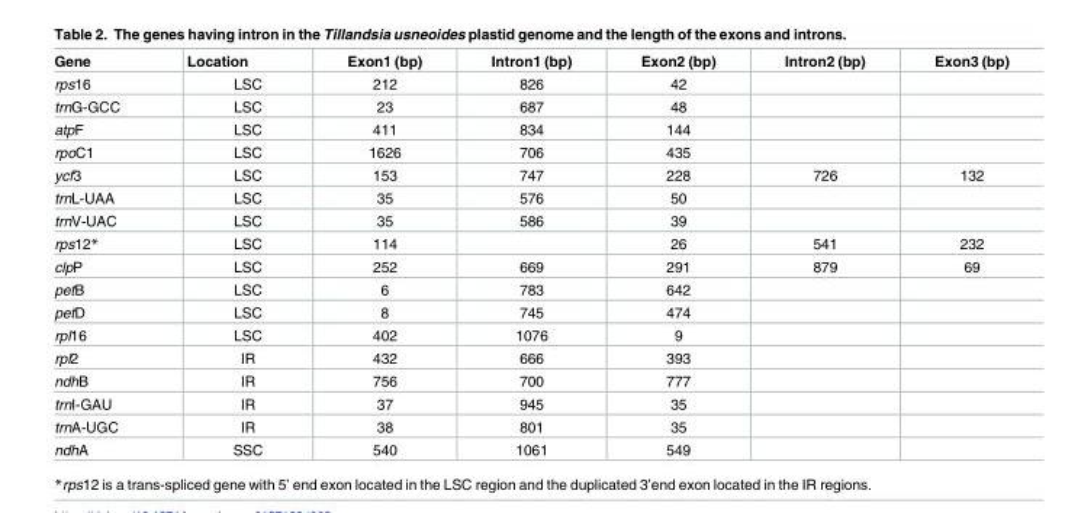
<table><thead><tr><td>Gene</td><td>Location</td><td>Exon1 (bp)</td><td>Intron1 (bp)</td><td>Exon2 (bp)</td><td>Intron2 (bp)</td><td>Exon3 (bp)</td></tr></thead><tbody><tr><td>rps16</td><td>LSC</td><td>212</td><td>826</td><td>42</td><td></td><td></td></tr><tr><td>trnG-GCC</td><td>LSC</td><td>23</td><td>687</td><td>48</td><td></td><td></td></tr><tr><td>atpF</td><td>LSC</td><td>411</td><td>834</td><td>144</td><td></td><td></td></tr><tr><td>rpoC1</td><td>LSC</td><td>1626</td><td>706</td><td>435</td><td></td><td></td></tr><tr><td>ycf3</td><td>LSC</td><td>153</td><td>747</td><td>228</td><td>726</td><td>132</td></tr><tr><td>trnL-UAA</td><td>LSC</td><td>35</td><td>576</td><td>50</td><td></td><td></td></tr><tr><td>trnV-UAC</td><td>LSC</td><td>35</td><td>586</td><td>39</td><td></td><td></td></tr><tr><td>rps12*</td><td>LSC</td><td>114</td><td></td><td>26</td><td>541</td><td>232</td></tr><tr><td>clpP</td><td>LSC</td><td>252</td><td>669</td><td>291</td><td>879</td><td>69</td></tr><tr><td>petB</td><td>LSC</td><td>6</td><td>783</td><td>642</td><td></td><td></td></tr><tr><td>petD</td><td>LSC</td><td>8</td><td>745</td><td>474</td><td></td><td></td></tr><tr><td>rpl16</td><td>LSC</td><td>402</td><td>1076</td><td>9</td><td></td><td></td></tr><tr><td>rpl2</td><td>IR</td><td>432</td><td>666</td><td>393</td><td></td><td></td></tr><tr><td>ndhB</td><td>IR</td><td>756</td><td>700</td><td>777</td><td></td><td></td></tr><tr><td>trnI-GAU</td><td>IR</td><td>37</td><td>945</td><td>35</td><td></td><td></td></tr><tr><td>trnA-UGC</td><td>IR</td><td>38</td><td>801</td><td>35</td><td></td><td></td></tr><tr><td>ndhA</td><td>SSC</td><td>540</td><td>1061</td><td>549</td><td></td><td></td></tr></tbody></table>